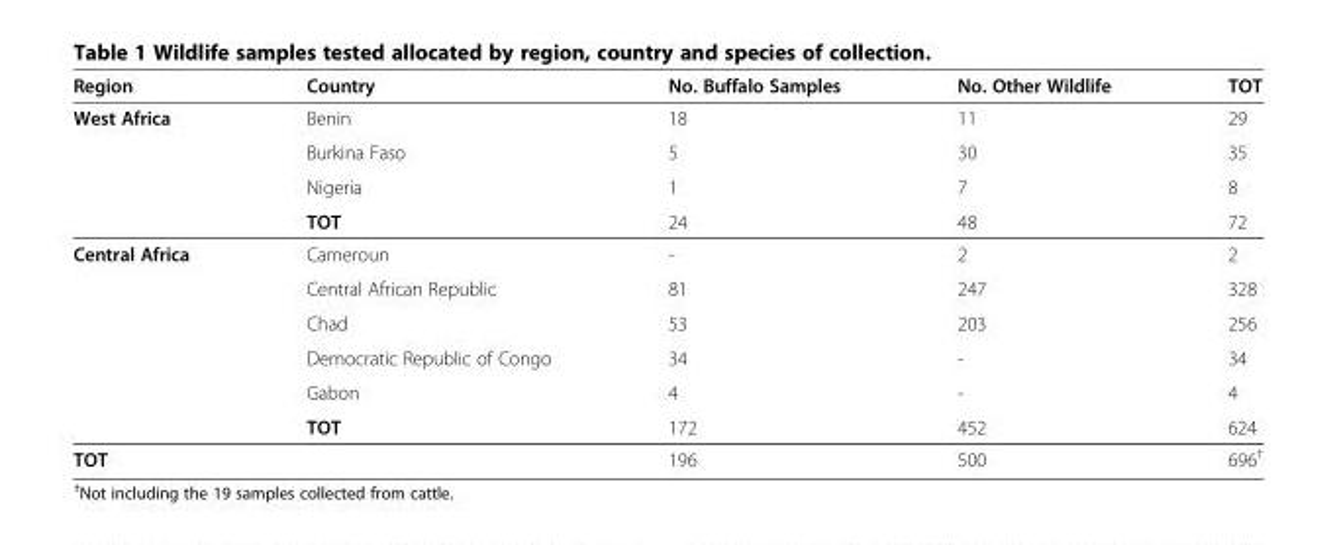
<table><thead><tr><td>Region</td><td>Country</td><td>No. Buffalo Samples</td><td>No. Other Wildlife</td><td>TOT</td></tr></thead><tbody><tr><td rowspan="4">West Africa</td><td>Benin</td><td>18</td><td>11</td><td>29</td></tr><tr><td>Burkina Faso</td><td>5</td><td>30</td><td>35</td></tr><tr><td>Nigeria</td><td>1</td><td>7</td><td>8</td></tr><tr><td>TOT</td><td>24</td><td>48</td><td>72</td></tr><tr><td rowspan="6">Central Africa</td><td>Cameroun</td><td>-</td><td>2</td><td>2</td></tr><tr><td>Central African Republic</td><td>81</td><td>247</td><td>328</td></tr><tr><td>Chad</td><td>53</td><td>203</td><td>256</td></tr><tr><td>Democratic Republic of Congo</td><td>34</td><td>-</td><td>34</td></tr><tr><td>Gabon</td><td>4</td><td>-</td><td>4</td></tr><tr><td>TOT</td><td>172</td><td>452</td><td>624</td></tr><tr><td>TOT</td><td></td><td>196</td><td>500</td><td>696<sup>†</sup></td></tr></tbody></table>